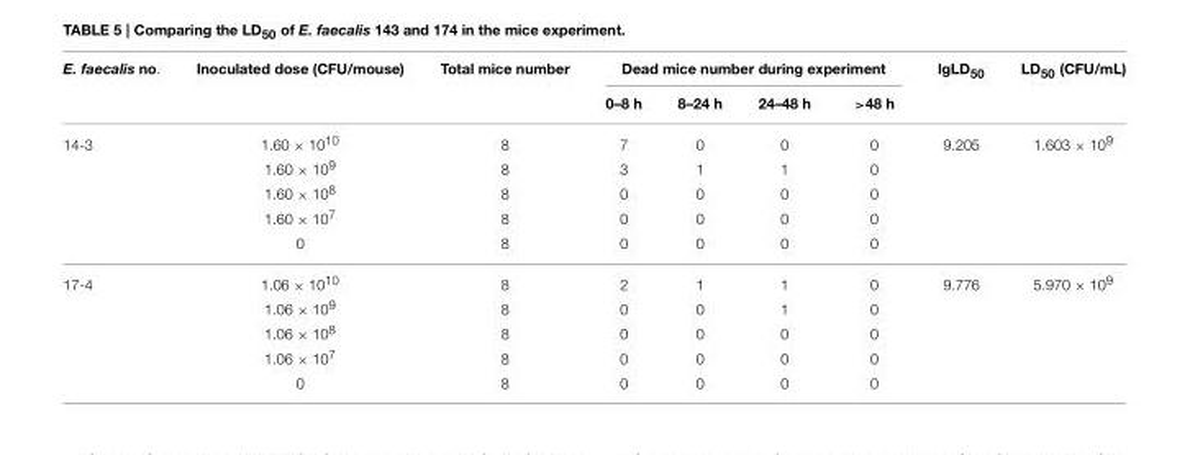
<table><thead><tr><td rowspan="2">E. faecalis no.</td><td rowspan="2">Inoculated dose (CFU/mouse)</td><td rowspan="2">Total mice number</td><td colspan="4">Dead mice number during experiment</td><td rowspan="2">lgLD<sub>50</sub></td><td rowspan="2">LD<sub>50</sub> (CFU/mL)</td></tr><tr><td>0–8 h</td><td>8–24 h</td><td>24–48 h</td><td>&gt;48 h</td></tr></thead><tbody><tr><td rowspan="5">14-3</td><td>1.60 × 10<sup>10</sup></td><td>8</td><td>7</td><td>0</td><td>0</td><td>0</td><td>9.205</td><td>1.603 × 10<sup>9</sup></td></tr><tr><td>1.60 × 10<sup>9</sup></td><td>8</td><td>3</td><td>1</td><td>1</td><td>0</td><td></td><td></td></tr><tr><td>1.60 × 10<sup>8</sup></td><td>8</td><td>0</td><td>0</td><td>0</td><td>0</td><td></td><td></td></tr><tr><td>1.60 × 10<sup>7</sup></td><td>8</td><td>0</td><td>0</td><td>0</td><td>0</td><td></td><td></td></tr><tr><td>0</td><td>8</td><td>0</td><td>0</td><td>0</td><td>0</td><td></td><td></td></tr><tr><td rowspan="5">17-4</td><td>1.06 × 10<sup>10</sup></td><td>8</td><td>2</td><td>1</td><td>1</td><td>0</td><td>9.776</td><td>5.970 × 10<sup>9</sup></td></tr><tr><td>1.06 × 10<sup>9</sup></td><td>8</td><td>0</td><td>0</td><td>1</td><td>0</td><td></td><td></td></tr><tr><td>1.06 × 10<sup>8</sup></td><td>8</td><td>0</td><td>0</td><td>0</td><td>0</td><td></td><td></td></tr><tr><td>1.06 × 10<sup>7</sup></td><td>8</td><td>0</td><td>0</td><td>0</td><td>0</td><td></td><td></td></tr><tr><td>0</td><td>8</td><td>0</td><td>0</td><td>0</td><td>0</td><td></td><td></td></tr></tbody></table>